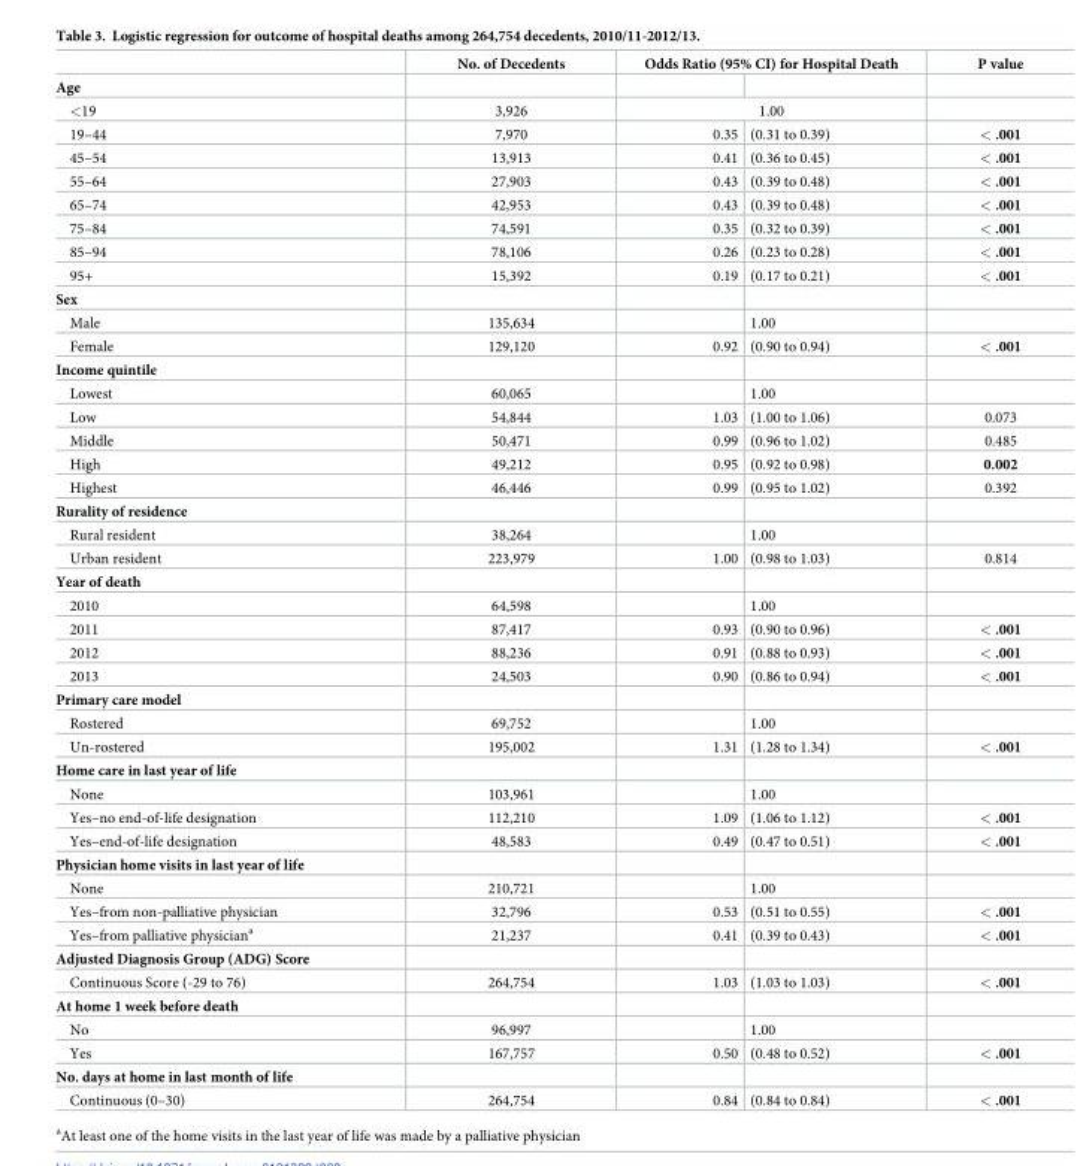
<table><thead><tr><td rowspan="2">Age</td><td rowspan="2">No. of Decedents</td><td colspan="2">Odds Ratio (95% CI) for Hospital Death</td><td rowspan="2">P value</td></tr><tr><td></td><td></td></tr></thead><tbody><tr><td>&lt;19</td><td>3,926</td><td colspan="2">1.00</td><td></td></tr><tr><td>19–44</td><td>7,970</td><td>0.35</td><td>(0.31 to 0.39)</td><td>&lt; .001</td></tr><tr><td>45–54</td><td>13,913</td><td>0.41</td><td>(0.36 to 0.45)</td><td>&lt; .001</td></tr><tr><td>55–64</td><td>27,903</td><td>0.43</td><td>(0.39 to 0.48)</td><td>&lt; .001</td></tr><tr><td>65–74</td><td>42,953</td><td>0.43</td><td>(0.39 to 0.48)</td><td>&lt; .001</td></tr><tr><td>75–84</td><td>74,591</td><td>0.35</td><td>(0.32 to 0.39)</td><td>&lt; .001</td></tr><tr><td>85–94</td><td>78,106</td><td>0.26</td><td>(0.23 to 0.28)</td><td>&lt; .001</td></tr><tr><td>95+</td><td>15,392</td><td>0.19</td><td>(0.17 to 0.21)</td><td>&lt; .001</td></tr><tr><td colspan="5">Sex</td></tr><tr><td>Male</td><td>135,634</td><td></td><td>1.00</td><td></td></tr><tr><td>Female</td><td>129,120</td><td>0.92</td><td>(0.90 to 0.94)</td><td>&lt; .001</td></tr><tr><td colspan="5">Income quintile</td></tr><tr><td>Lowest</td><td>60,065</td><td></td><td>1.00</td><td></td></tr><tr><td>Low</td><td>54,844</td><td>1.03</td><td>(1.00 to 1.06)</td><td>0.073</td></tr><tr><td>Middle</td><td>50,471</td><td>0.99</td><td>(0.96 to 1.02)</td><td>0.485</td></tr><tr><td>High</td><td>49,212</td><td>0.95</td><td>(0.92 to 0.98)</td><td>0.002</td></tr><tr><td>Highest</td><td>46,446</td><td>0.99</td><td>(0.95 to 1.02)</td><td>0.392</td></tr><tr><td colspan="5">Rurality of residence</td></tr><tr><td>Rural resident</td><td>38,264</td><td></td><td>1.00</td><td></td></tr><tr><td>Urban resident</td><td>223,979</td><td>1.00</td><td>(0.98 to 1.03)</td><td>0.814</td></tr><tr><td colspan="5">Year of death</td></tr><tr><td>2010</td><td>64,598</td><td></td><td>1.00</td><td></td></tr><tr><td>2011</td><td>87,417</td><td>0.93</td><td>(0.90 to 0.96)</td><td>&lt; .001</td></tr><tr><td>2012</td><td>88,236</td><td>0.91</td><td>(0.88 to 0.93)</td><td>&lt; .001</td></tr><tr><td>2013</td><td>24,503</td><td>0.90</td><td>(0.86 to 0.94)</td><td>&lt; .001</td></tr><tr><td colspan="5">Primary care model</td></tr><tr><td>Rostered</td><td>69,752</td><td></td><td>1.00</td><td></td></tr><tr><td>Un-rostered</td><td>195,002</td><td>1.31</td><td>(1.28 to 1.34)</td><td>&lt; .001</td></tr><tr><td colspan="5">Home care in last year of life</td></tr><tr><td>None</td><td>103,961</td><td></td><td>1.00</td><td></td></tr><tr><td>Yes–no end-of-life designation</td><td>112,210</td><td>1.09</td><td>(1.06 to 1.12)</td><td>&lt; .001</td></tr><tr><td>Yes–end-of-life designation</td><td>48,583</td><td>0.49</td><td>(0.47 to 0.51)</td><td>&lt; .001</td></tr><tr><td colspan="5">Physician home visits in last year of life</td></tr><tr><td>None</td><td>210,721</td><td></td><td>1.00</td><td></td></tr><tr><td>Yes–from non-palliative physician</td><td>32,796</td><td>0.53</td><td>(0.51 to 0.55)</td><td>&lt; .001</td></tr><tr><td>Yes–from palliative physician<sup>a</sup></td><td>21,237</td><td>0.41</td><td>(0.39 to 0.43)</td><td>&lt; .001</td></tr><tr><td colspan="5">Adjusted Diagnosis Group (ADG) Score</td></tr><tr><td>Continuous Score (-29 to 76)</td><td>264,754</td><td>1.03</td><td>(1.03 to 1.03)</td><td>&lt; .001</td></tr><tr><td colspan="5">At home 1 week before death</td></tr><tr><td>No</td><td>96,997</td><td></td><td>1.00</td><td></td></tr><tr><td>Yes</td><td>167,757</td><td>0.50</td><td>(0.48 to 0.52)</td><td>&lt; .001</td></tr><tr><td colspan="5">No. days at home in last month of life</td></tr><tr><td>Continuous (0–30)</td><td>264,754</td><td>0.84</td><td>(0.84 to 0.84)</td><td>&lt; .001</td></tr></tbody></table>